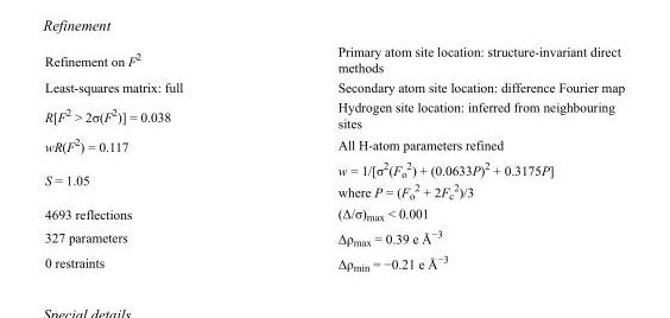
<table><tbody><tr><td>Refinement on F<sup>2</sup></td><td>Primary atom site location: structure-invariant direct methods</td></tr><tr><td>Least-squares matrix: full</td><td>Secondary atom site location: difference Fourier map</td></tr><tr><td>R[F<sup>2</sup> &gt; 2σ(F<sup>2</sup>)] = 0.038</td><td>Hydrogen site location: inferred from neighbouring sites</td></tr><tr><td>wR(F<sup>2</sup>) = 0.117</td><td>All H-atom parameters refined</td></tr><tr><td>S = 1.05</td><td>w = 1/[σ<sup>2</sup>(F<sub>o</sub> <sup>2</sup>) + (0.0633P)<sup>2</sup> + 0.3175P] where P = (F<sub>o</sub> <sup>2</sup> + 2F<sub>c</sub> <sup>2</sup>)/3</td></tr><tr><td>4693 reflections</td><td>(Δ/σ)<sub>max</sub> &lt; 0.001</td></tr><tr><td>327 parameters</td><td>Δρ<sub>max</sub> = 0.39 e Å<sup>−3</sup></td></tr><tr><td>0 restraints</td><td>Δρ<sub>min</sub> = −0.21 e Å<sup>−3</sup></td></tr></tbody></table>